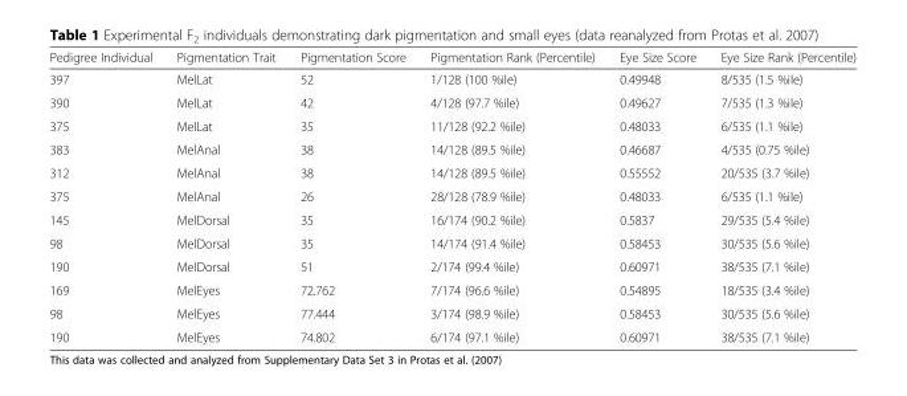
<table><thead><tr><td>Pedigree Individual</td><td>Pigmentation Trait</td><td>Pigmentation Score</td><td>Pigmentation Rank (Percentile)</td><td>Eye Size Score</td><td>Eye Size Rank (Percentile)</td></tr></thead><tbody><tr><td>397</td><td>MelLat</td><td>52</td><td>1/128 (100 %ile)</td><td>0.49948</td><td>8/535 (1.5 %ile)</td></tr><tr><td>390</td><td>MelLat</td><td>42</td><td>4/128 (97.7 %ile)</td><td>0.49627</td><td>7/535 (1.3 %ile)</td></tr><tr><td>375</td><td>MelLat</td><td>35</td><td>11/128 (92.2 %ile)</td><td>0.48033</td><td>6/535 (1.1 %ile)</td></tr><tr><td>383</td><td>MelAnal</td><td>38</td><td>14/128 (89.5 %ile)</td><td>0.46687</td><td>4/535 (0.75 %ile)</td></tr><tr><td>312</td><td>MelAnal</td><td>38</td><td>14/128 (89.5 %ile)</td><td>0.55552</td><td>20/535 (3.7 %ile)</td></tr><tr><td>375</td><td>MelAnal</td><td>26</td><td>28/128 (78.9 %ile)</td><td>0.48033</td><td>6/535 (1.1 %ile)</td></tr><tr><td>145</td><td>MelDorsal</td><td>35</td><td>16/174 (90.2 %ile)</td><td>0.5837</td><td>29/535 (5.4 %ile)</td></tr><tr><td>98</td><td>MelDorsal</td><td>35</td><td>14/174 (91.4 %ile)</td><td>0.58453</td><td>30/535 (5.6 %ile)</td></tr><tr><td>190</td><td>MelDorsal</td><td>51</td><td>2/174 (99.4 %ile)</td><td>0.60971</td><td>38/535 (7.1 %ile)</td></tr><tr><td>169</td><td>MelEyes</td><td>72.762</td><td>7/174 (96.6 %ile)</td><td>0.54895</td><td>18/535 (3.4 %ile)</td></tr><tr><td>98</td><td>MelEyes</td><td>77.444</td><td>3/174 (98.9 %ile)</td><td>0.58453</td><td>30/535 (5.6 %ile)</td></tr><tr><td>190</td><td>MelEyes</td><td>74.802</td><td>6/174 (97.1 %ile)</td><td>0.60971</td><td>38/535 (7.1 %ile)</td></tr></tbody></table>